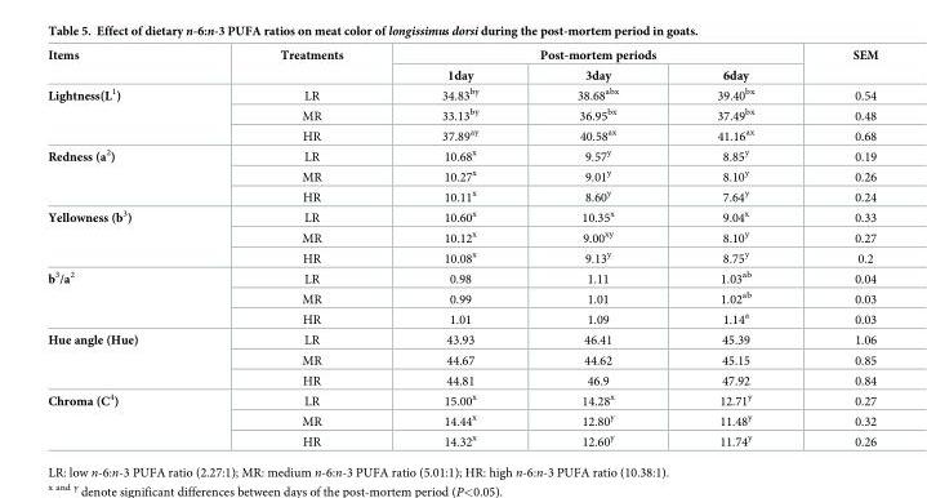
<table><thead><tr><td rowspan="2">Items</td><td rowspan="2">Treatments</td><td colspan="3">Post-mortem periods</td><td rowspan="2">SEM</td></tr><tr><td>1day</td><td>3day</td><td>6day</td></tr></thead><tbody><tr><td rowspan="3">Lightness(L<sup>1</sup>)</td><td>LR</td><td>34.83<sup>by</sup></td><td>38.68<sup>abx</sup></td><td>39.40<sup>bx</sup></td><td>0.54</td></tr><tr><td>MR</td><td>33.13<sup>by</sup></td><td>36.95<sup>bx</sup></td><td>37.49<sup>bx</sup></td><td>0.48</td></tr><tr><td>HR</td><td>37.89<sup>ay</sup></td><td>40.58<sup>ax</sup></td><td>41.16<sup>ax</sup></td><td>0.68</td></tr><tr><td rowspan="3">Redness (a<sup>2</sup>)</td><td>LR</td><td>10.68<sup>x</sup></td><td>9.57<sup>y</sup></td><td>8.85<sup>y</sup></td><td>0.19</td></tr><tr><td>MR</td><td>10.27<sup>x</sup></td><td>9.01<sup>y</sup></td><td>8.10<sup>y</sup></td><td>0.26</td></tr><tr><td>HR</td><td>10.11<sup>x</sup></td><td>8.60<sup>y</sup></td><td>7.64<sup>y</sup></td><td>0.24</td></tr><tr><td rowspan="3">Yellowness (b<sup>3</sup>)</td><td>LR</td><td>10.60<sup>x</sup></td><td>10.35<sup>x</sup></td><td>9.04<sup>x</sup></td><td>0.33</td></tr><tr><td>MR</td><td>10.12<sup>x</sup></td><td>9.00<sup>xy</sup></td><td>8.10<sup>y</sup></td><td>0.27</td></tr><tr><td>HR</td><td>10.08<sup>x</sup></td><td>9.13<sup>y</sup></td><td>8.75<sup>y</sup></td><td>0.2</td></tr><tr><td rowspan="3">b<sup>3</sup>/a<sup>2</sup></td><td>LR</td><td>0.98</td><td>1.11</td><td>1.03<sup>ab</sup></td><td>0.04</td></tr><tr><td>MR</td><td>0.99</td><td>1.01</td><td>1.02<sup>ab</sup></td><td>0.03</td></tr><tr><td>HR</td><td>1.01</td><td>1.09</td><td>1.14<sup>a</sup></td><td>0.03</td></tr><tr><td rowspan="3">Hue angle (Hue)</td><td>LR</td><td>43.93</td><td>46.41</td><td>45.39</td><td>1.06</td></tr><tr><td>MR</td><td>44.67</td><td>44.62</td><td>45.15</td><td>0.85</td></tr><tr><td>HR</td><td>44.81</td><td>46.9</td><td>47.92</td><td>0.84</td></tr><tr><td rowspan="3">Chroma (C<sup>4</sup>)</td><td>LR</td><td>15.00<sup>x</sup></td><td>14.28<sup>x</sup></td><td>12.71<sup>y</sup></td><td>0.27</td></tr><tr><td>MR</td><td>14.44<sup>x</sup></td><td>12.80<sup>y</sup></td><td>11.48<sup>y</sup></td><td>0.32</td></tr><tr><td>HR</td><td>14.32<sup>x</sup></td><td>12.60<sup>y</sup></td><td>11.74<sup>y</sup></td><td>0.26</td></tr></tbody></table>